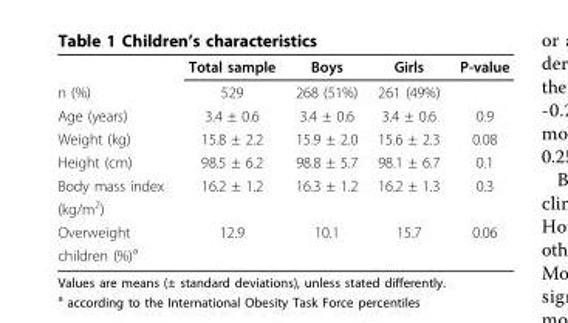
<table><thead><tr><td></td><td>Total sample</td><td>Boys</td><td>Girls</td><td>P-value</td></tr></thead><tbody><tr><td>n (%)</td><td>529</td><td>268 (51%)</td><td>261 (49%)</td><td></td></tr><tr><td>Age (years)</td><td>3.4 ± 0.6</td><td>3.4 ± 0.6</td><td>3.4 ± 0.6</td><td>0.9</td></tr><tr><td>Weight (kg)</td><td>15.8 ± 2.2</td><td>15.9 ± 2.0</td><td>15.6 ± 2.3</td><td>0.08</td></tr><tr><td>Height (cm)</td><td>98.5 ± 6.2</td><td>98.8 ± 5.7</td><td>98.1 ± 6.7</td><td>0.1</td></tr><tr><td>Body mass index</td><td>16.2 ± 1.2</td><td>16.3 ± 1.2</td><td>16.2 ± 1.3</td><td>0.3</td></tr><tr><td colspan="5">(kg/m<sup>2</sup>)</td></tr><tr><td>Overweight</td><td>12.9</td><td>10.1</td><td>15.7</td><td>0.06</td></tr><tr><td>children (%)<sup>a</sup></td><td></td><td></td><td></td><td></td></tr></tbody></table>